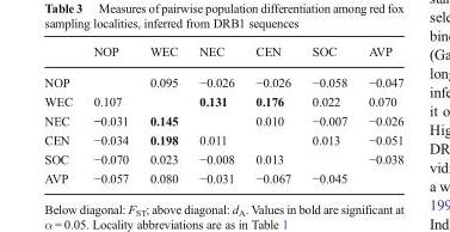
<table><thead><tr><td></td><td>NOP</td><td>WEC</td><td>NEC</td><td>CEN</td><td>SOC</td><td>AVP</td></tr></thead><tbody><tr><td>NOP</td><td></td><td>0.095</td><td>−0.026</td><td>−0.026</td><td>−0.058</td><td>−0.047</td></tr><tr><td>WEC</td><td>0.107</td><td></td><td>0.131</td><td>0.176</td><td>0.022</td><td>0.070</td></tr><tr><td>NEC</td><td>−0.031</td><td>0.145</td><td></td><td>0.010</td><td>−0.007</td><td>−0.026</td></tr><tr><td>CEN</td><td>−0.034</td><td>0.198</td><td>0.011</td><td></td><td>0.013</td><td>−0.051</td></tr><tr><td>SOC</td><td>−0.070</td><td>0.023</td><td>−0.008</td><td>0.013</td><td></td><td>−0.038</td></tr><tr><td>AVP</td><td>−0.057</td><td>0.080</td><td>−0.031</td><td>−0.067</td><td>−0.045</td><td></td></tr></tbody></table>